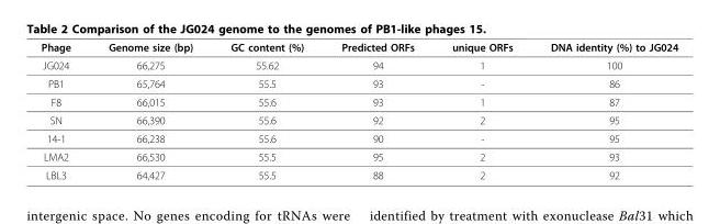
<table><thead><tr><td>Phage</td><td>Genome size (bp)</td><td>GC content (%)</td><td>Predicted ORFs</td><td>unique ORFs</td><td>DNA identity (%) to JG024</td></tr></thead><tbody><tr><td>JG024</td><td>66,275</td><td>55.62</td><td>94</td><td>1</td><td>100</td></tr><tr><td>PB1</td><td>65,764</td><td>55.5</td><td>93</td><td>-</td><td>86</td></tr><tr><td>F8</td><td>66,015</td><td>55.6</td><td>93</td><td>1</td><td>87</td></tr><tr><td>SN</td><td>66,390</td><td>55.6</td><td>92</td><td>2</td><td>95</td></tr><tr><td>14-1</td><td>66,238</td><td>55.6</td><td>90</td><td>-</td><td>95</td></tr><tr><td>LMA2</td><td>66,530</td><td>55.5</td><td>95</td><td>2</td><td>93</td></tr><tr><td>LBL3</td><td>64,427</td><td>55.5</td><td>88</td><td>2</td><td>92</td></tr></tbody></table>